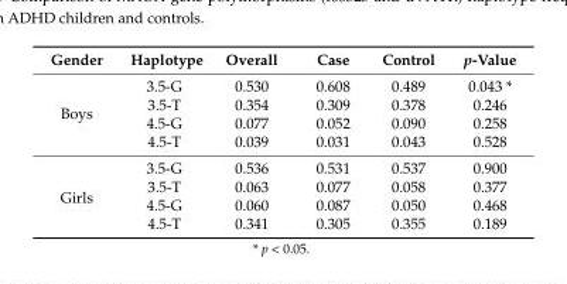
<table><thead><tr><td>Gender</td><td>Haplotype</td><td>Overall</td><td>Case</td><td>Control</td><td>p-Value</td></tr></thead><tbody><tr><td rowspan="4">Boys</td><td>3.5-G</td><td>0.530</td><td>0.608</td><td>0.489</td><td>0.043 *</td></tr><tr><td>3.5-T</td><td>0.354</td><td>0.309</td><td>0.378</td><td>0.246</td></tr><tr><td>4.5-G</td><td>0.077</td><td>0.052</td><td>0.090</td><td>0.258</td></tr><tr><td>4.5-T</td><td>0.039</td><td>0.031</td><td>0.043</td><td>0.528</td></tr><tr><td rowspan="4">Girls</td><td>3.5-G</td><td>0.536</td><td>0.531</td><td>0.537</td><td>0.900</td></tr><tr><td>3.5-T</td><td>0.063</td><td>0.077</td><td>0.058</td><td>0.377</td></tr><tr><td>4.5-G</td><td>0.060</td><td>0.087</td><td>0.050</td><td>0.468</td></tr><tr><td>4.5-T</td><td>0.341</td><td>0.305</td><td>0.355</td><td>0.189</td></tr></tbody></table>